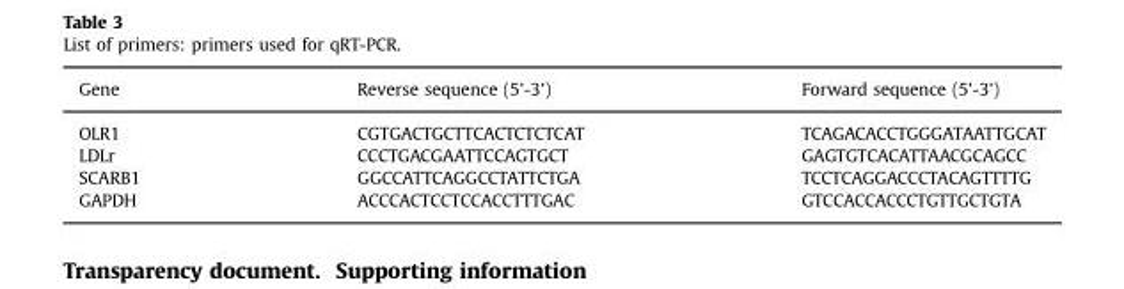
<table><thead><tr><td>Gene</td><td>Reverse sequence (5’-3’)</td><td>Forward sequence (5’-3’)</td></tr></thead><tbody><tr><td>OLR1</td><td>CGTGACTGCTTCACTCTCTCAT</td><td>TCAGACACCTGGGATAATTGCAT</td></tr><tr><td>LDLr</td><td>CCCTGACGAATTCCAGTGCT</td><td>GAGTGTCACATTAACGCAGCC</td></tr><tr><td>SCARB1</td><td>GGCCATTCAGGCCTATTCTGA</td><td>TCCTCAGGACCCTACAGTTTTG</td></tr><tr><td>GAPDH</td><td>ACCCACTCCTCCACCTTTGAC</td><td>GTCCACCACCCTGTTGCTGTA</td></tr></tbody></table>